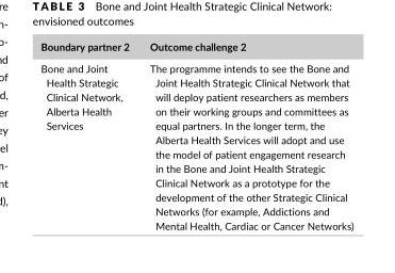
<table><thead><tr><td>Boundary partner 2</td><td>Outcome challenge 2</td></tr></thead><tbody><tr><td>Bone and Joint Health Strategic Clinical Network, Alberta Health Services</td><td>The programme intends to see the Bone and Joint Health Strategic Clinical Network that will deploy patient researchers as members on their working groups and committees as equal partners. In the longer term, the Alberta Health Services will adopt and use the model of patient engagement research in the Bone and Joint Health Strategic Clinical Network as a prototype for the development of the other Strategic Clinical Networks (for example, Addictions and Mental Health, Cardiac or Cancer Networks)</td></tr></tbody></table>